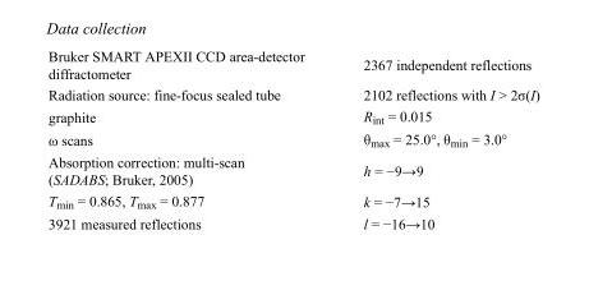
<table><tbody><tr><td>Bruker SMART APEXII CCD area-detector diffractometer</td><td>2367 independent reflections</td></tr><tr><td>Radiation source: fine-focus sealed tube</td><td>2102 reflections with I &gt; 2σ(I)</td></tr><tr><td>graphite</td><td>R<sub>int</sub> = 0.015</td></tr><tr><td>ω scans</td><td>θ<sub>max</sub> = 25.0°, θ<sub>min</sub> = 3.0°</td></tr><tr><td>Absorption correction: multi-scan (SADABS; Bruker, 2005)</td><td>h = −9→9</td></tr><tr><td>T<sub>min</sub> = 0.865, T<sub>max</sub> = 0.877</td><td>k = −7→15</td></tr><tr><td>3921 measured reflections</td><td>l = −16→10</td></tr></tbody></table>